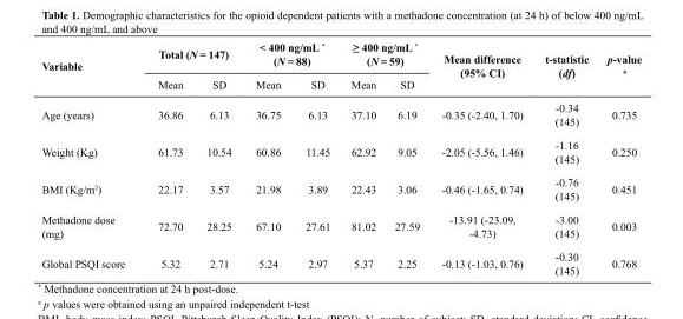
<table><thead><tr><td rowspan="2">Variable</td><td colspan="2">Total (N = 147)</td><td colspan="2">&lt; 400 ng/mL * (N = 88)</td><td colspan="2">≥ 400 ng/mL * (N = 59)</td><td rowspan="2">Mean difference (95% CI)</td><td rowspan="2">t-statistic (df)</td><td rowspan="2">p-value a</td></tr><tr><td>Mean</td><td>SD</td><td>Mean</td><td>SD</td><td>Mean</td><td>SD</td></tr></thead><tbody><tr><td>Age (years)</td><td>36.86</td><td>6.13</td><td>36.75</td><td>6.13</td><td>37.10</td><td>6.19</td><td>-0.35 (-2.40, 1.70)</td><td>-0.34 (145)</td><td>0.735</td></tr><tr><td>Weight (Kg)</td><td>61.73</td><td>10.54</td><td>60.86</td><td>11.45</td><td>62.92</td><td>9.05</td><td>-2.05 (-5.56, 1.46)</td><td>-1.16 (145)</td><td>0.250</td></tr><tr><td>BMI (Kg/m<sup>2</sup>)</td><td>22.17</td><td>3.57</td><td>21.98</td><td>3.89</td><td>22.43</td><td>3.06</td><td>-0.46 (-1.65, 0.74)</td><td>-0.76 (145)</td><td>0.451</td></tr><tr><td>Methadone dose (mg)</td><td>72.70</td><td>28.25</td><td>67.10</td><td>27.61</td><td>81.02</td><td>27.59</td><td>-13.91 (-23.09, -4.73)</td><td>-3.00 (145)</td><td>0.003</td></tr><tr><td>Global PSQI score</td><td>5.32</td><td>2.71</td><td>5.24</td><td>2.97</td><td>5.37</td><td>2.25</td><td>-0.13 (-1.03, 0.76)</td><td>-0.30 (145)</td><td>0.768</td></tr></tbody></table>